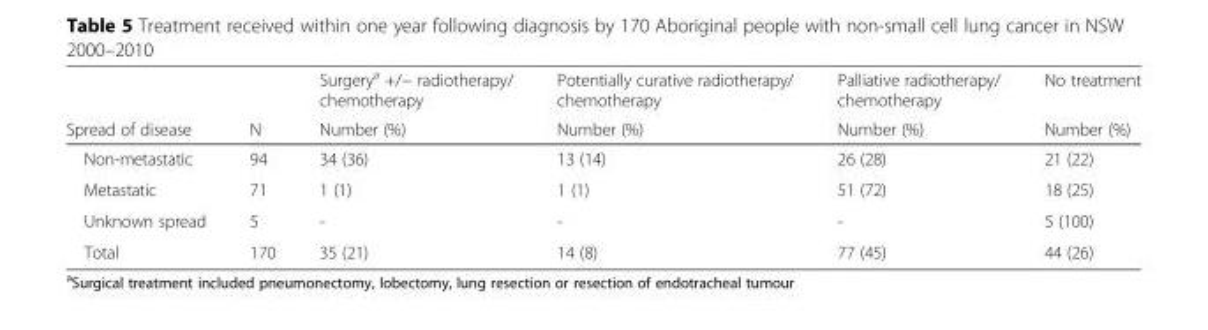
<table><thead><tr><td rowspan="2">Spread of disease</td><td rowspan="2">N</td><td rowspan="2">Surgery<sup>a</sup> +/− radiotherapy/ chemotherapy Number (%)</td><td rowspan="2">Potentially curative radiotherapy/ chemotherapy Number (%)</td><td rowspan="2">Palliative radiotherapy/ chemotherapy Number (%)</td><td rowspan="2">No treatment Number (%)</td></tr><tr></tr></thead><tbody><tr><td>Non-metastatic</td><td>94</td><td>34 (36)</td><td>13 (14)</td><td>26 (28)</td><td>21 (22)</td></tr><tr><td>Metastatic</td><td>71</td><td>1 (1)</td><td>1 (1)</td><td>51 (72)</td><td>18 (25)</td></tr><tr><td>Unknown spread</td><td>5</td><td>-</td><td>-</td><td>-</td><td>5 (100)</td></tr><tr><td>Total</td><td>170</td><td>35 (21)</td><td>14 (8)</td><td>77 (45)</td><td>44 (26)</td></tr></tbody></table>